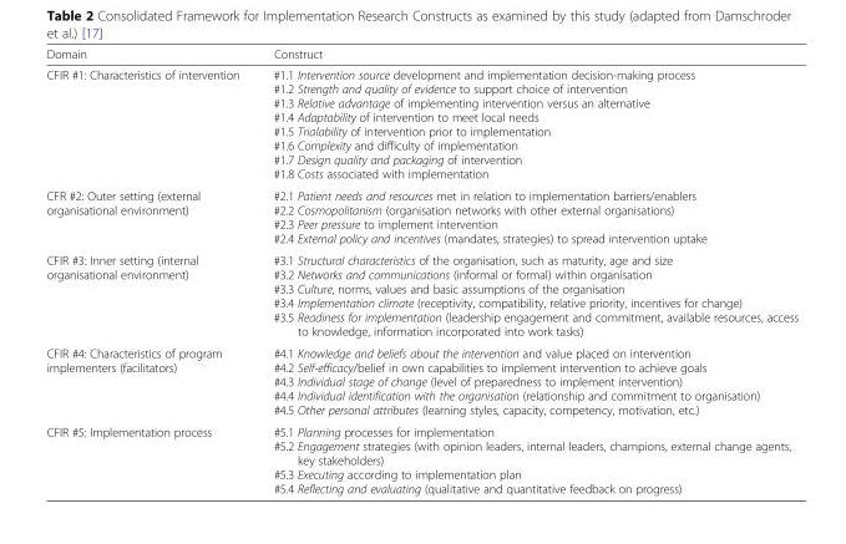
<table><thead><tr><td>Domain</td><td>Construct</td></tr></thead><tbody><tr><td>CFIR #1: Characteristics of intervention</td><td>#1.1 Intervention source development and implementation decision-making process #1.2 Strength and quality of evidence to support choice of intervention #1.3 Relative advantage of implementing intervention versus an alternative #1.4 Adaptability of intervention to meet local needs #1.5 Trialability of intervention prior to implementation #1.6 Complexity and difficulty of implementation #1.7 Design quality and packaging of intervention #1.8 Costs associated with implementation</td></tr><tr><td>CFR #2: Outer setting (external organisational environment)</td><td>#2.1 Patient needs and resources met in relation to implementation barriers/enablers #2.2 Cosmopolitanism (organisation networks with other external organisations) #2.3 Peer pressure to implement intervention #2.4 External policy and incentives (mandates, strategies) to spread intervention uptake</td></tr><tr><td>CFIR #3: Inner setting (internal organisational environment)</td><td>#3.1 Structural characteristics of the organisation, such as maturity, age and size #3.2 Networks and communications (informal or formal) within organisation #3.3 Culture, norms, values and basic assumptions of the organisation #3.4 Implementation climate (receptivity, compatibility, relative priority, incentives for change) #3.5 Readiness for implementation (leadership engagement and commitment, available resources, access to knowledge, information incorporated into work tasks)</td></tr><tr><td>CFIR #4: Characteristics of program implementers (facilitators)</td><td>#4.1 Knowledge and beliefs about the intervention and value placed on intervention #4.2 Self-efficacy/belief in own capabilities to implement intervention to achieve goals #4.3 Individual stage of change (level of preparedness to implement intervention) #4.4 Individual identification with the organisation (relationship and commitment to organisation) #4.5 Other personal attributes (learning styles, capacity, competency, motivation, etc.)</td></tr><tr><td>CFIR #5: Implementation process</td><td>#5.1 Planning processes for implementation #5.2 Engagement strategies (with opinion leaders, internal leaders, champions, external change agents, key stakeholders) #5.3 Executing according to implementation plan #5.4 Reflecting and evaluating (qualitative and quantitative feedback on progress)</td></tr></tbody></table>